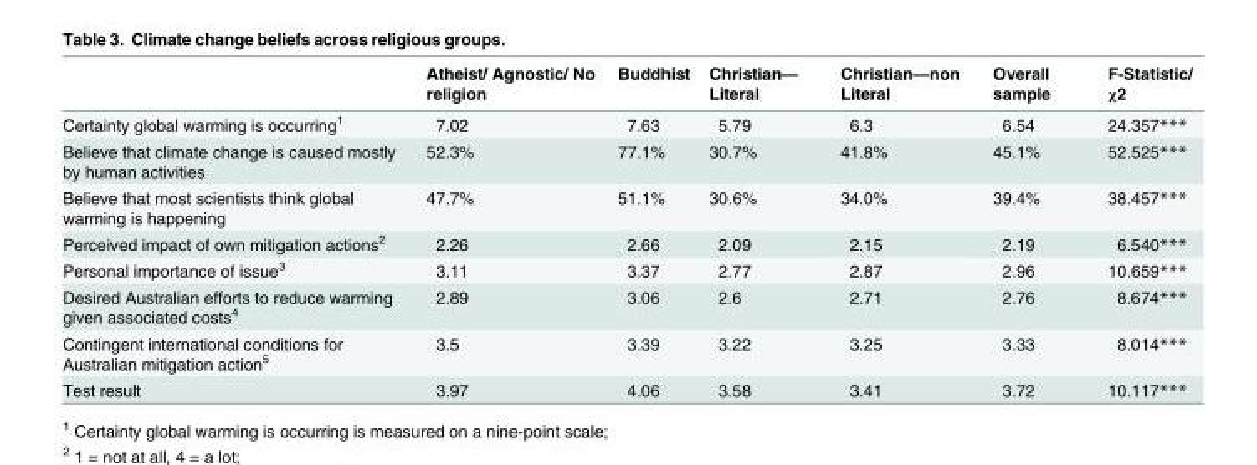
<table><thead><tr><td></td><td>Atheist/ Agnostic/ No religion</td><td>Buddhist</td><td>Christian— Literal</td><td>Christian—non Literal</td><td>Overall sample</td><td>F-Statistic/ χ2</td></tr></thead><tbody><tr><td>Certainty global warming is occurring<sup>1</sup></td><td>7.02</td><td>7.63</td><td>5.79</td><td>6.3</td><td>6.54</td><td>24.357***</td></tr><tr><td>Believe that climate change is caused mostly by human activities</td><td>52.3%</td><td>77.1%</td><td>30.7%</td><td>41.8%</td><td>45.1%</td><td>52.525***</td></tr><tr><td>Believe that most scientists think global warming is happening</td><td>47.7%</td><td>51.1%</td><td>30.6%</td><td>34.0%</td><td>39.4%</td><td>38.457***</td></tr><tr><td>Perceived impact of own mitigation actions<sup>2</sup></td><td>2.26</td><td>2.66</td><td>2.09</td><td>2.15</td><td>2.19</td><td>6.540***</td></tr><tr><td>Personal importance of issue<sup>3</sup></td><td>3.11</td><td>3.37</td><td>2.77</td><td>2.87</td><td>2.96</td><td>10.659***</td></tr><tr><td>Desired Australian efforts to reduce warming given associated costs<sup>4</sup></td><td>2.89</td><td>3.06</td><td>2.6</td><td>2.71</td><td>2.76</td><td>8.674***</td></tr><tr><td>Contingent international conditions for Australian mitigation action<sup>5</sup></td><td>3.5</td><td>3.39</td><td>3.22</td><td>3.25</td><td>3.33</td><td>8.014***</td></tr><tr><td>Test result</td><td>3.97</td><td>4.06</td><td>3.58</td><td>3.41</td><td>3.72</td><td>10.117***</td></tr></tbody></table>